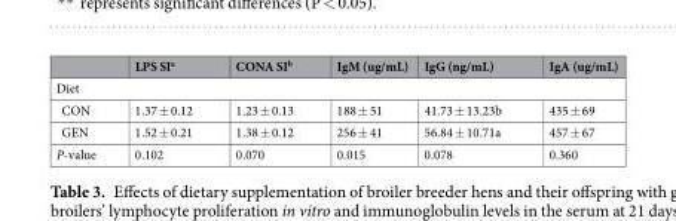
<table><thead><tr><td></td><td>LPS SI<sup>a</sup></td><td>CONA SI<sup>b</sup></td><td>IgM (ug/mL)</td><td>IgG (ng/mL)</td><td>IgA (ug/mL)</td></tr></thead><tbody><tr><td colspan="6">Diet</td></tr><tr><td>CON</td><td>1.37 ± 0.12</td><td>1.23 ± 0.13</td><td>188 ± 51</td><td>41.73 ± 13.23b</td><td>435 ± 69</td></tr><tr><td>GEN</td><td>1.52 ± 0.21</td><td>1.38 ± 0.12</td><td>256 ± 41</td><td>56.84 ± 10.71a</td><td>457 ± 67</td></tr><tr><td>P-value</td><td>0.102</td><td>0.070</td><td>0.015</td><td>0.078</td><td>0.360</td></tr></tbody></table>